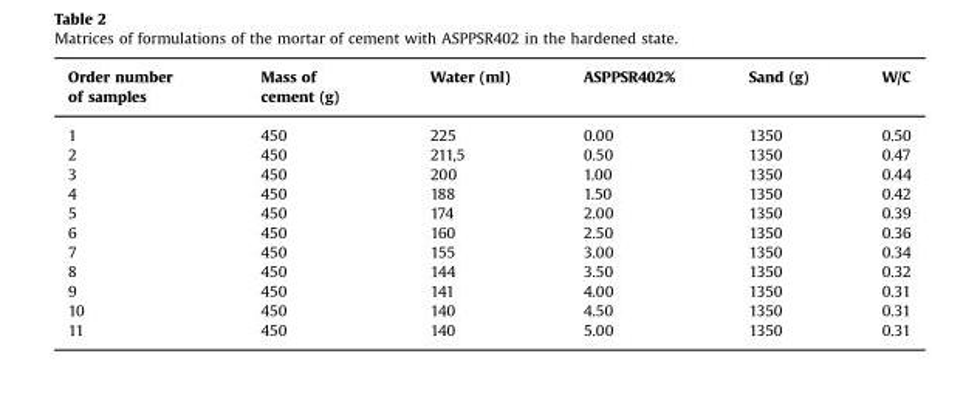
<table><thead><tr><td>Order number of samples</td><td>Mass of cement (g)</td><td>Water (ml)</td><td>ASPPSR402%</td><td>Sand (g)</td><td>W/C</td></tr></thead><tbody><tr><td>1</td><td>450</td><td>225</td><td>0.00</td><td>1350</td><td>0.50</td></tr><tr><td>2</td><td>450</td><td>211,5</td><td>0.50</td><td>1350</td><td>0.47</td></tr><tr><td>3</td><td>450</td><td>200</td><td>1.00</td><td>1350</td><td>0.44</td></tr><tr><td>4</td><td>450</td><td>188</td><td>1.50</td><td>1350</td><td>0.42</td></tr><tr><td>5</td><td>450</td><td>174</td><td>2.00</td><td>1350</td><td>0.39</td></tr><tr><td>6</td><td>450</td><td>160</td><td>2.50</td><td>1350</td><td>0.36</td></tr><tr><td>7</td><td>450</td><td>155</td><td>3.00</td><td>1350</td><td>0.34</td></tr><tr><td>8</td><td>450</td><td>144</td><td>3.50</td><td>1350</td><td>0.32</td></tr><tr><td>9</td><td>450</td><td>141</td><td>4.00</td><td>1350</td><td>0.31</td></tr><tr><td>10</td><td>450</td><td>140</td><td>4.50</td><td>1350</td><td>0.31</td></tr><tr><td>11</td><td>450</td><td>140</td><td>5.00</td><td>1350</td><td>0.31</td></tr></tbody></table>